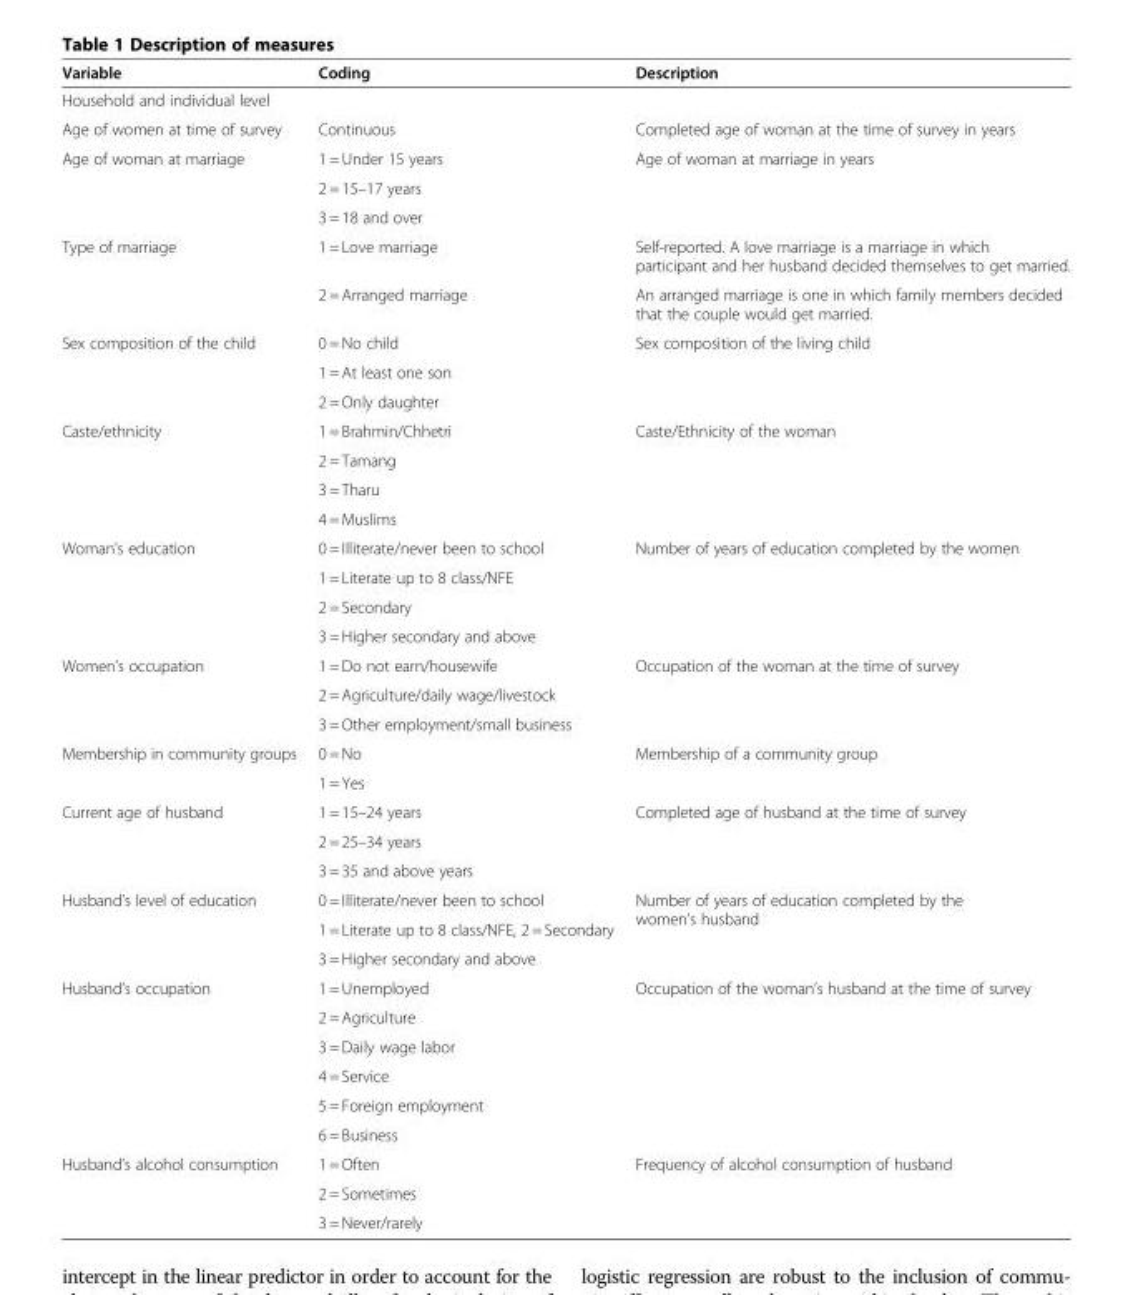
<table><thead><tr><td>Variable</td><td>Coding</td><td>Description</td></tr></thead><tbody><tr><td colspan="3">Household and individual level</td></tr><tr><td>Age of women at time of survey</td><td>Continuous</td><td>Completed age of woman at the time of survey in years</td></tr><tr><td rowspan="3">Age of woman at marriage</td><td>1 = Under 15 years</td><td rowspan="3">Age of woman at marriage in years</td></tr><tr><td>2 = 15–17 years</td></tr><tr><td>3 = 18 and over</td></tr><tr><td rowspan="2">Type of marriage</td><td>1 = Love marriage</td><td>Self-reported. A love marriage is a marriage in which participant and her husband decided themselves to get married.</td></tr><tr><td>2 = Arranged marriage</td><td>An arranged marriage is one in which family members decided that the couple would get married.</td></tr><tr><td rowspan="3">Sex composition of the child</td><td>0 = No child</td><td rowspan="3">Sex composition of the living child</td></tr><tr><td>1 = At least one son</td></tr><tr><td>2 = Only daughter</td></tr><tr><td rowspan="4">Caste/ethnicity</td><td>1 = Brahmin/Chhetri</td><td rowspan="4">Caste/Ethnicity of the woman</td></tr><tr><td>2 = Tamang</td></tr><tr><td>3 = Tharu</td></tr><tr><td>4 = Muslims</td></tr><tr><td rowspan="4">Woman’s education</td><td>0 = Illiterate/never been to school</td><td rowspan="4">Number of years of education completed by the women</td></tr><tr><td>1 = Literate up to 8 class/NFE</td></tr><tr><td>2 = Secondary</td></tr><tr><td>3 = Higher secondary and above</td></tr><tr><td rowspan="3">Women’s occupation</td><td>1 = Do not earn/housewife</td><td rowspan="3">Occupation of the woman at the time of survey</td></tr><tr><td>2 = Agriculture/daily wage/livestock</td></tr><tr><td>3 = Other employment/small business</td></tr><tr><td rowspan="2">Membership in community groups</td><td>0 = No</td><td rowspan="2">Membership of a community group</td></tr><tr><td>1 = Yes</td></tr><tr><td rowspan="3">Current age of husband</td><td>1 = 15–24 years</td><td rowspan="3">Completed age of husband at the time of survey</td></tr><tr><td>2 = 25–34 years</td></tr><tr><td>3 = 35 and above years</td></tr><tr><td rowspan="3">Husband’s level of education</td><td>0 = Illiterate/never been to school</td><td rowspan="3">Number of years of education completed by the women’s husband</td></tr><tr><td>1 = Literate up to 8 class/NFE, 2 = Secondary</td></tr><tr><td>3 = Higher secondary and above</td></tr><tr><td rowspan="6">Husband’s occupation</td><td>1 = Unemployed</td><td rowspan="6">Occupation of the woman’s husband at the time of survey</td></tr><tr><td>2 = Agriculture</td></tr><tr><td>3 = Daily wage labor</td></tr><tr><td>4 = Service</td></tr><tr><td>5 = Foreign employment</td></tr><tr><td>6 = Business</td></tr><tr><td rowspan="3">Husband’s alcohol consumption</td><td>1 = Often</td><td>Frequency of alcohol consumption of husband</td></tr><tr><td>2 = Sometimes</td><td></td></tr><tr><td>3 = Never/rarely</td><td></td></tr></tbody></table>